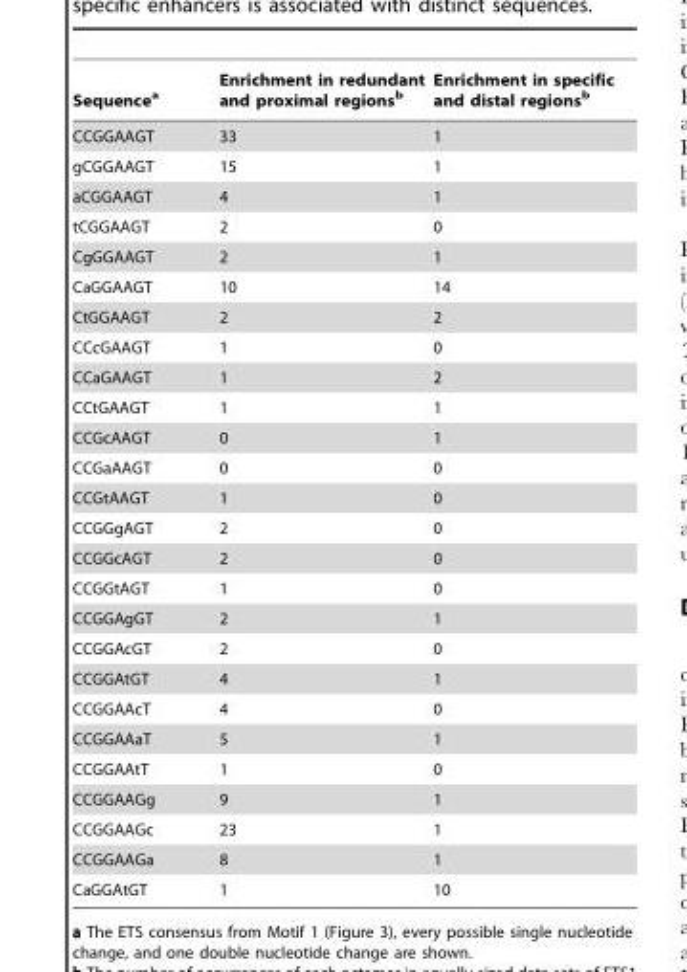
<table><thead><tr><td>Sequence<sup>a</sup></td><td>Enrichment in redundant and proximal regions<sup>b</sup></td><td>Enrichment in specific and distal regions<sup>b</sup></td></tr></thead><tbody><tr><td>CCGGAAGT</td><td>33</td><td>1</td></tr><tr><td>gCGGAAGT</td><td>15</td><td>1</td></tr><tr><td>aCGGAAGT</td><td>4</td><td>1</td></tr><tr><td>tCGGAAGT</td><td>2</td><td>0</td></tr><tr><td>CgGGAAGT</td><td>2</td><td>1</td></tr><tr><td>CaGGAAGT</td><td>10</td><td>14</td></tr><tr><td>CtGGAAGT</td><td>2</td><td>2</td></tr><tr><td>CCcGAAGT</td><td>1</td><td>0</td></tr><tr><td>CCaGAAGT</td><td>1</td><td>2</td></tr><tr><td>CCtGAAGT</td><td>1</td><td>1</td></tr><tr><td>CCGcAAGT</td><td>0</td><td>1</td></tr><tr><td>CCGaAAGT</td><td>0</td><td>0</td></tr><tr><td>CCGtAAGT</td><td>1</td><td>0</td></tr><tr><td>CCGGgAGT</td><td>2</td><td>0</td></tr><tr><td>CCGGcAGT</td><td>2</td><td>0</td></tr><tr><td>CCGGtAGT</td><td>1</td><td>0</td></tr><tr><td>CCGGAgGT</td><td>2</td><td>1</td></tr><tr><td>CCGGAcGT</td><td>2</td><td>0</td></tr><tr><td>CCGGAtGT</td><td>4</td><td>1</td></tr><tr><td>CCGGAAcT</td><td>4</td><td>0</td></tr><tr><td>CCGGAAaT</td><td>5</td><td>1</td></tr><tr><td>CCGGAAtT</td><td>1</td><td>0</td></tr><tr><td>CCGGAAGg</td><td>9</td><td>1</td></tr><tr><td>CCGGAAGc</td><td>23</td><td>1</td></tr><tr><td>CCGGAAGa</td><td>8</td><td>1</td></tr><tr><td>CaGGAtGT</td><td>1</td><td>10</td></tr></tbody></table>